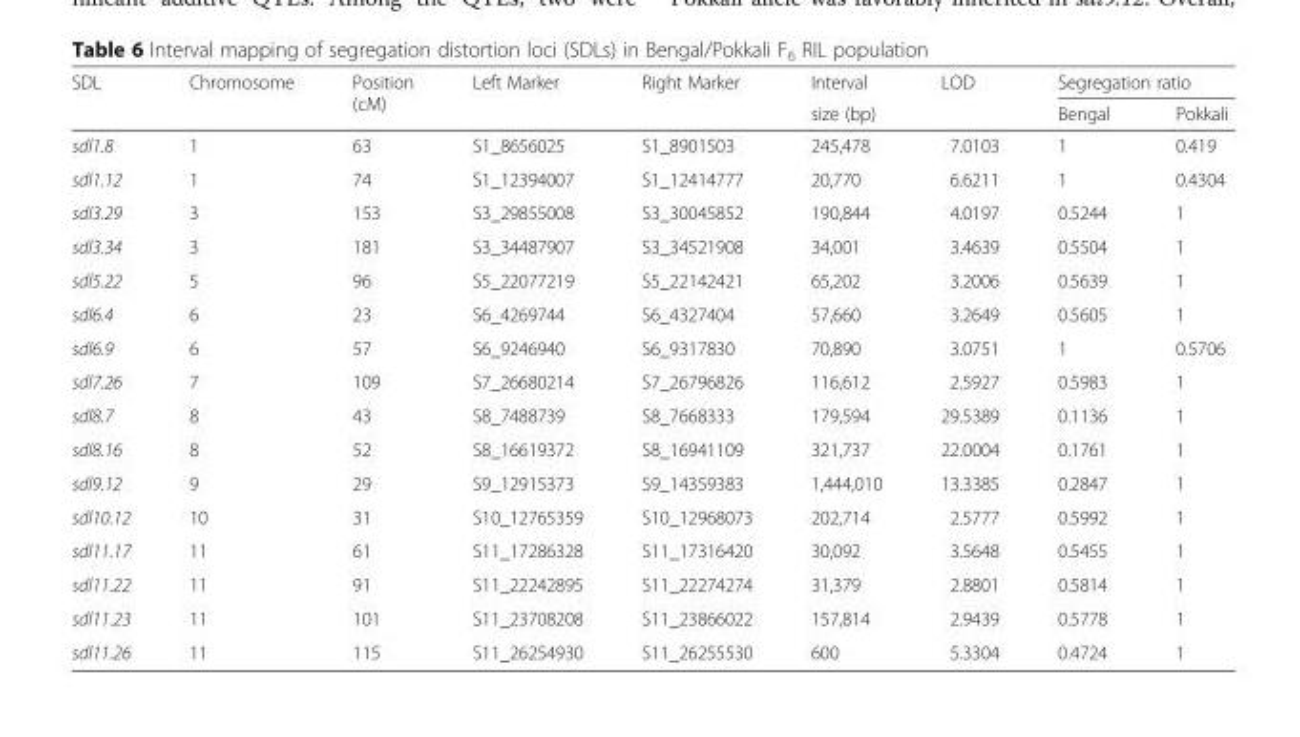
<table><thead><tr><td rowspan="2">SDL</td><td rowspan="2">Chromosome</td><td rowspan="2">Position (cM)</td><td rowspan="2">Left Marker</td><td rowspan="2">Right Marker</td><td rowspan="2">Interval size (bp)</td><td rowspan="2">LOD</td><td colspan="2">Segregation ratio</td></tr><tr><td>Bengal</td><td>Pokkali</td></tr></thead><tbody><tr><td>sdl1.8</td><td>1</td><td>63</td><td>S1_8656025</td><td>S1_8901503</td><td>245,478</td><td>7.0103</td><td>1</td><td>0.419</td></tr><tr><td>sdl1.12</td><td>1</td><td>74</td><td>S1_12394007</td><td>S1_12414777</td><td>20,770</td><td>6.6211</td><td>1</td><td>0.4304</td></tr><tr><td>sdl3.29</td><td>3</td><td>153</td><td>S3_29855008</td><td>S3_30045852</td><td>190,844</td><td>4.0197</td><td>0.5244</td><td>1</td></tr><tr><td>sdl3.34</td><td>3</td><td>181</td><td>S3_34487907</td><td>S3_34521908</td><td>34,001</td><td>3.4639</td><td>0.5504</td><td>1</td></tr><tr><td>sdl5.22</td><td>5</td><td>96</td><td>S5_22077219</td><td>S5_22142421</td><td>65,202</td><td>3.2006</td><td>0.5639</td><td>1</td></tr><tr><td>sdl6.4</td><td>6</td><td>23</td><td>S6_4269744</td><td>S6_4327404</td><td>57,660</td><td>3.2649</td><td>0.5605</td><td>1</td></tr><tr><td>sdl6.9</td><td>6</td><td>57</td><td>S6_9246940</td><td>S6_9317830</td><td>70,890</td><td>3.0751</td><td>1</td><td>0.5706</td></tr><tr><td>sdl7.26</td><td>7</td><td>109</td><td>S7_26680214</td><td>S7_26796826</td><td>116,612</td><td>2.5927</td><td>0.5983</td><td>1</td></tr><tr><td>sdl8.7</td><td>8</td><td>43</td><td>S8_7488739</td><td>S8_7668333</td><td>179,594</td><td>29.5389</td><td>0.1136</td><td>1</td></tr><tr><td>sdl8.16</td><td>8</td><td>52</td><td>S8_16619372</td><td>S8_16941109</td><td>321,737</td><td>22.0004</td><td>0.1761</td><td>1</td></tr><tr><td>sdl9.12</td><td>9</td><td>29</td><td>S9_12915373</td><td>S9_14359383</td><td>1,444,010</td><td>13.3385</td><td>0.2847</td><td>1</td></tr><tr><td>sdl10.12</td><td>10</td><td>31</td><td>S10_12765359</td><td>S10_12968073</td><td>202,714</td><td>2.5777</td><td>0.5992</td><td>1</td></tr><tr><td>sdl11.17</td><td>11</td><td>61</td><td>S11_17286328</td><td>S11_17316420</td><td>30,092</td><td>3.5648</td><td>0.5455</td><td>1</td></tr><tr><td>sdl11.22</td><td>11</td><td>91</td><td>S11_22242895</td><td>S11_22274274</td><td>31,379</td><td>2.8801</td><td>0.5814</td><td>1</td></tr><tr><td>sdl11.23</td><td>11</td><td>101</td><td>S11_23708208</td><td>S11_23866022</td><td>157,814</td><td>2.9439</td><td>0.5778</td><td>1</td></tr><tr><td>sdl11.26</td><td>11</td><td>115</td><td>S11_26254930</td><td>S11_26255530</td><td>600</td><td>5.3304</td><td>0.4724</td><td>1</td></tr></tbody></table>